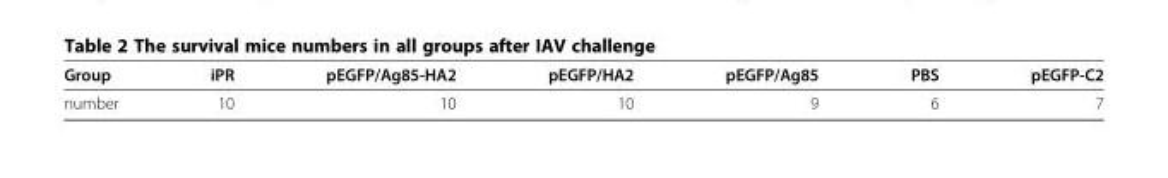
<table><thead><tr><td>Group</td><td>iPR</td><td>pEGFP/Ag85-HA2</td><td>pEGFP/HA2</td><td>pEGFP/Ag85</td><td>PBS</td><td>pEGFP-C2</td></tr></thead><tbody><tr><td>number</td><td>10</td><td>10</td><td>10</td><td>9</td><td>6</td><td>7</td></tr></tbody></table>